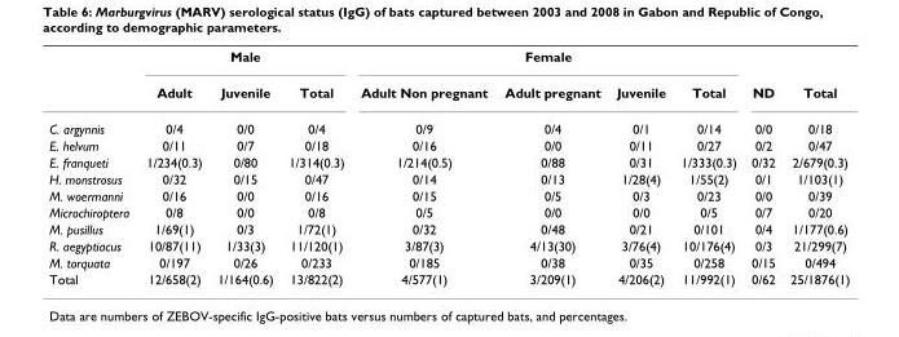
<table><thead><tr><td rowspan="2"></td><td colspan="3">Male</td><td colspan="4">Female</td><td rowspan="2">ND</td><td rowspan="2">Total</td></tr><tr><td>Adult</td><td>Juvenile</td><td>Total</td><td>Adult Non pregnant</td><td>Adult pregnant</td><td>Juvenile</td><td>Total</td></tr></thead><tbody><tr><td>C. argynnis</td><td>0/4</td><td>0/0</td><td>0/4</td><td>0/9</td><td>0/4</td><td>0/1</td><td>0/14</td><td>0/0</td><td>0/18</td></tr><tr><td>E. helvum</td><td>0/11</td><td>0/7</td><td>0/18</td><td>0/16</td><td>0/0</td><td>0/11</td><td>0/27</td><td>0/2</td><td>0/47</td></tr><tr><td>E. franqueti</td><td>1/234(0.3)</td><td>0/80</td><td>1/314(0.3)</td><td>1/214(0.5)</td><td>0/88</td><td>0/31</td><td>1/333(0.3)</td><td>0/32</td><td>2/679(0.3)</td></tr><tr><td>H. monstrosus</td><td>0/32</td><td>0/15</td><td>0/47</td><td>0/14</td><td>0/13</td><td>1/28(4)</td><td>1/55(2)</td><td>0/1</td><td>1/103(1)</td></tr><tr><td>M. woermanni</td><td>0/16</td><td>0/0</td><td>0/16</td><td>0/15</td><td>0/5</td><td>0/3</td><td>0/23</td><td>0/0</td><td>0/39</td></tr><tr><td>Microchiroptera</td><td>0/8</td><td>0/0</td><td>0/8</td><td>0/5</td><td>0/0</td><td>0/0</td><td>0/5</td><td>0/7</td><td>0/20</td></tr><tr><td>M. pusillus</td><td>1/69(1)</td><td>0/3</td><td>1/72(1)</td><td>0/32</td><td>0/48</td><td>0/21</td><td>0/101</td><td>0/4</td><td>1/177(0.6)</td></tr><tr><td>R. aegyptiacus</td><td>10/87(11)</td><td>1/33(3)</td><td>11/120(1)</td><td>3/87(3)</td><td>4/13(30)</td><td>3/76(4)</td><td>10/176(4)</td><td>0/3</td><td>21/299(7)</td></tr><tr><td>M. torquata</td><td>0/197</td><td>0/26</td><td>0/233</td><td>0/185</td><td>0/38</td><td>0/35</td><td>0/258</td><td>0/15</td><td>0/494</td></tr><tr><td>Total</td><td>12/658(2)</td><td>1/164(0.6)</td><td>13/822(2)</td><td>4/577(1)</td><td>3/209(1)</td><td>4/206(2)</td><td>11/992(1)</td><td>0/62</td><td>25/1876(1)</td></tr></tbody></table>